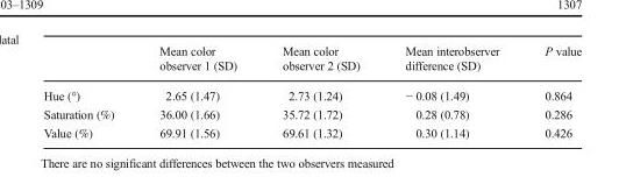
<table><thead><tr><td></td><td>Mean color observer 1 (SD)</td><td>Mean color observer 2 (SD)</td><td>Mean interobserver difference (SD)</td><td>P value</td></tr></thead><tbody><tr><td>Hue (°)</td><td>2.65 (1.47)</td><td>2.73 (1.24)</td><td>− 0.08 (1.49)</td><td>0.864</td></tr><tr><td>Saturation (%)</td><td>36.00 (1.66)</td><td>35.72 (1.72)</td><td>0.28 (0.78)</td><td>0.286</td></tr><tr><td>Value (%)</td><td>69.91 (1.56)</td><td>69.61 (1.32)</td><td>0.30 (1.14)</td><td>0.426</td></tr></tbody></table>